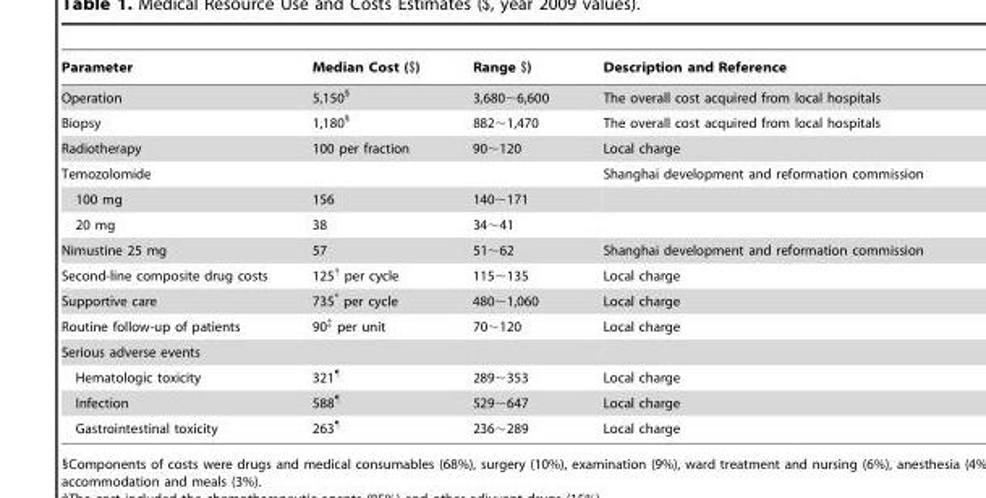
<table><thead><tr><td>Parameter</td><td>Median Cost ($)</td><td>Range $)</td><td>Description and Reference</td></tr></thead><tbody><tr><td>Operation</td><td>5,150§</td><td>3,680∼6,600</td><td>The overall cost acquired from local hospitals</td></tr><tr><td>Biopsy</td><td>1,180§</td><td>882∼1,470</td><td>The overall cost acquired from local hospitals</td></tr><tr><td>Radiotherapy</td><td>100 per fraction</td><td>90∼120</td><td>Local charge</td></tr><tr><td>Temozolomide</td><td></td><td></td><td>Shanghai development and reformation commission</td></tr><tr><td>100 mg</td><td>156</td><td>140∼171</td><td></td></tr><tr><td>20 mg</td><td>38</td><td>34∼41</td><td></td></tr><tr><td>Nimustine 25 mg</td><td>57</td><td>51∼62</td><td>Shanghai development and reformation commission</td></tr><tr><td>Second-line composite drug costs</td><td>125† per cycle</td><td>115∼135</td><td>Local charge</td></tr><tr><td>Supportive care</td><td>735* per cycle</td><td>480∼1,060</td><td>Local charge</td></tr><tr><td>Routine follow-up of patients</td><td>90‡ per unit</td><td>70∼120</td><td>Local charge</td></tr><tr><td colspan="4">Serious adverse events</td></tr><tr><td>Hematologic toxicity</td><td>321¶</td><td>289∼353</td><td>Local charge</td></tr><tr><td>Infection</td><td>588¶</td><td>529∼647</td><td>Local charge</td></tr><tr><td>Gastrointestinal toxicity</td><td>263¶</td><td>236∼289</td><td>Local charge</td></tr></tbody></table>